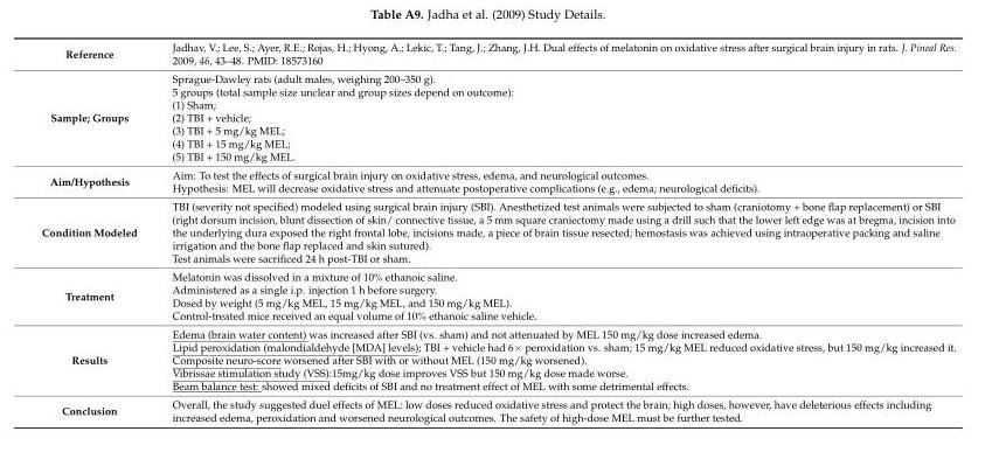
<table><tbody><tr><td>Reference</td><td>Jadhav, V.; Lee, S.; Ayer, R.E.; Rojas, H.; Hyong, A.; Lekic, T.; Tang, J.; Zhang, J.H. Dual effects of melatonin on oxidative stress after surgical brain injury in rats. J. Pineal Res. 2009, 46, 43–48. PMID: 18573160</td></tr><tr><td>Sample; Groups</td><td>Sprague-Dawley rats (adult males, weighing 200–350 g). 5 groups (total sample size unclear and group sizes depend on outcome): (1) Sham; (2) TBI + vehicle; (3) TBI + 5 mg/kg MEL; (4) TBI + 15 mg/kg MEL; (5) TBI + 150 mg/kg MEL.</td></tr><tr><td>Aim/Hypothesis</td><td>Aim: To test the effects of surgical brain injury on oxidative stress, edema, and neurological outcomes. Hypothesis: MEL will decrease oxidative stress and attenuate postoperative complications (e.g., edema; neurological deficits).</td></tr><tr><td>Condition Modeled</td><td>TBI (severity not specified) modeled using surgical brain injury (SBI). Anesthetized test animals were subjected to sham (craniotomy + bone flap replacement) or SBI (right dorsum incision, blunt dissection of skin/ connective tissue, a 5 mm square craniectomy made using a drill such that the lower left edge was at bregma, incision into the underlying dura exposed the right frontal lobe, incisions made, a piece of brain tissue resected; hemostasis was achieved using intraoperative packing and saline irrigation and the bone flap replaced and skin sutured). Test animals were sacrificed 24 h post-TBI or sham.</td></tr><tr><td>Treatment</td><td>Melatonin was dissolved in a mixture of 10% ethanoic saline. Administered as a single i.p. injection 1 h before surgery. Dosed by weight (5 mg/kg MEL, 15 mg/kg MEL, and 150 mg/kg MEL). Control-treated mice received an equal volume of 10% ethanoic saline vehicle.</td></tr><tr><td>Results</td><td>Edema (brain water content) was increased after SBI (vs. sham) and not attenuated by MEL 150 mg/kg dose increased edema. Lipid peroxidation (malondialdehyde [MDA] levels); TBI + vehicle had 6× peroxidation vs. sham; 15 mg/kg MEL reduced oxidative stress, but 150 mg/kg increased it. Composite neuro-score worsened after SBI with or without MEL (150 mg/kg worsened). Vibrissae stimulation study (VSS):15mg/kg dose improves VSS but 150 mg/kg dose made worse. Beam balance test: showed mixed deficits of SBI and no treatment effect of MEL with some detrimental effects.</td></tr><tr><td>Conclusion</td><td>Overall, the study suggested duel effects of MEL: low doses reduced oxidative stress and protect the brain; high doses, however, have deleterious effects including increased edema, peroxidation and worsened neurological outcomes. The safety of high-dose MEL must be further tested.</td></tr></tbody></table>